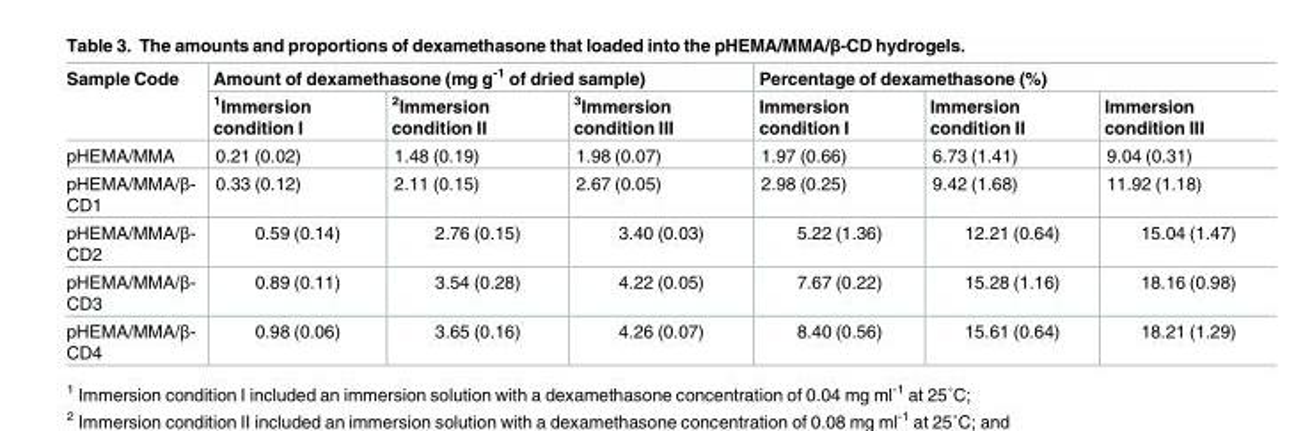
<table><thead><tr><td rowspan="2">Sample Code</td><td colspan="3">Amount of dexamethasone (mg g<sup>-1</sup> of dried sample)</td><td colspan="3">Percentage of dexamethasone (%)</td></tr><tr><td><sup>1</sup>Immersion condition I</td><td><sup>2</sup>Immersion condition II</td><td><sup>3</sup>Immersion condition III</td><td>Immersion condition I</td><td>Immersion condition II</td><td>Immersion condition III</td></tr></thead><tbody><tr><td>pHEMA/MMA</td><td>0.21 (0.02)</td><td>1.48 (0.19)</td><td>1.98 (0.07)</td><td>1.97 (0.66)</td><td>6.73 (1.41)</td><td>9.04 (0.31)</td></tr><tr><td>pHEMA/MMA/β- CD1</td><td>0.33 (0.12)</td><td>2.11 (0.15)</td><td>2.67 (0.05)</td><td>2.98 (0.25)</td><td>9.42 (1.68)</td><td>11.92 (1.18)</td></tr><tr><td>pHEMA/MMA/β- CD2</td><td>0.59 (0.14)</td><td>2.76 (0.15)</td><td>3.40 (0.03)</td><td>5.22 (1.36)</td><td>12.21 (0.64)</td><td>15.04 (1.47)</td></tr><tr><td>pHEMA/MMA/β- CD3</td><td>0.89 (0.11)</td><td>3.54 (0.28)</td><td>4.22 (0.05)</td><td>7.67 (0.22)</td><td>15.28 (1.16)</td><td>18.16 (0.98)</td></tr><tr><td>pHEMA/MMA/β- CD4</td><td>0.98 (0.06)</td><td>3.65 (0.16)</td><td>4.26 (0.07)</td><td>8.40 (0.56)</td><td>15.61 (0.64)</td><td>18.21 (1.29)</td></tr></tbody></table>